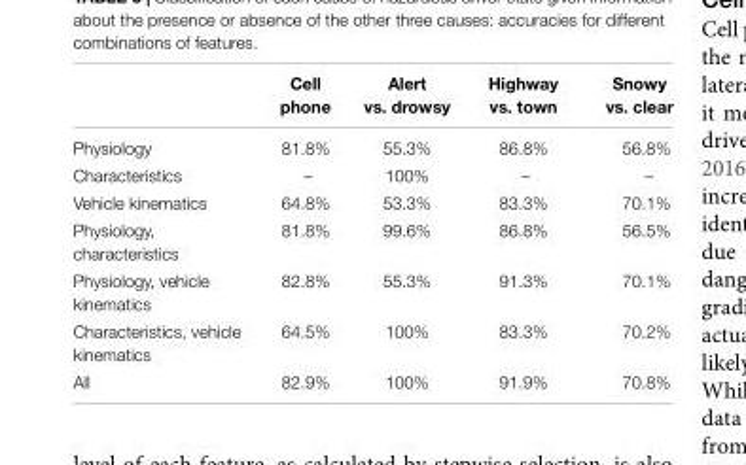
<table><thead><tr><td></td><td>Cell phone</td><td>Alert vs. drowsy</td><td>Highway vs. town</td><td>Snowy vs. clear</td></tr></thead><tbody><tr><td>Physiology</td><td>81.8%</td><td>55.3%</td><td>86.8%</td><td>56.8%</td></tr><tr><td>Characteristics</td><td>–</td><td>100%</td><td>–</td><td>–</td></tr><tr><td>Vehicle kinematics</td><td>64.8%</td><td>53.3%</td><td>83.3%</td><td>70.1%</td></tr><tr><td>Physiology, characteristics</td><td>81.8%</td><td>99.6%</td><td>86.8%</td><td>56.5%</td></tr><tr><td>Physiology, vehicle kinematics</td><td>82.8%</td><td>55.3%</td><td>91.3%</td><td>70.1%</td></tr><tr><td>Characteristics, vehicle kinematics</td><td>64.5%</td><td>100%</td><td>83.3%</td><td>70.2%</td></tr><tr><td>All</td><td>82.9%</td><td>100%</td><td>91.9%</td><td>70.8%</td></tr></tbody></table>